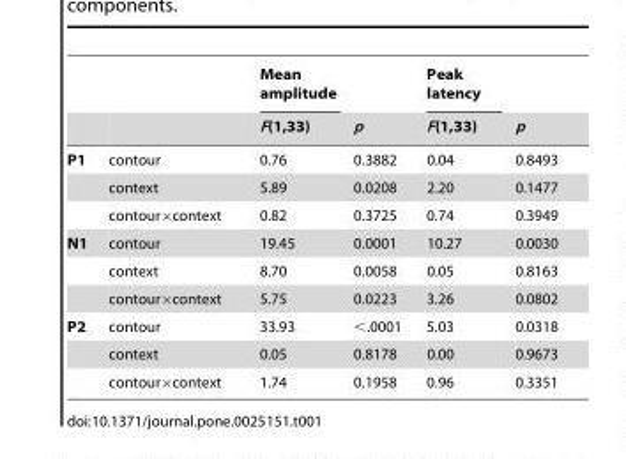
<table><thead><tr><td rowspan="2"></td><td rowspan="2"></td><td rowspan="2">Mean amplitude F(1,33)</td><td rowspan="2">p</td><td rowspan="2">Peak latency F(1,33)</td><td rowspan="2">p</td></tr><tr></tr></thead><tbody><tr><td rowspan="3">P1</td><td>contour</td><td>0.76</td><td>0.3882</td><td>0.04</td><td>0.8493</td></tr><tr><td>context</td><td>5.89</td><td>0.0208</td><td>2.20</td><td>0.1477</td></tr><tr><td>contour×context</td><td>0.82</td><td>0.3725</td><td>0.74</td><td>0.3949</td></tr><tr><td rowspan="3">N1</td><td>contour</td><td>19.45</td><td>0.0001</td><td>10.27</td><td>0.0030</td></tr><tr><td>context</td><td>8.70</td><td>0.0058</td><td>0.05</td><td>0.8163</td></tr><tr><td>contour×context</td><td>5.75</td><td>0.0223</td><td>3.26</td><td>0.0802</td></tr><tr><td rowspan="3">P2</td><td>contour</td><td>33.93</td><td>&lt;.0001</td><td>5.03</td><td>0.0318</td></tr><tr><td>context</td><td>0.05</td><td>0.8178</td><td>0.00</td><td>0.9673</td></tr><tr><td>contour×context</td><td>1.74</td><td>0.1958</td><td>0.96</td><td>0.3351</td></tr></tbody></table>